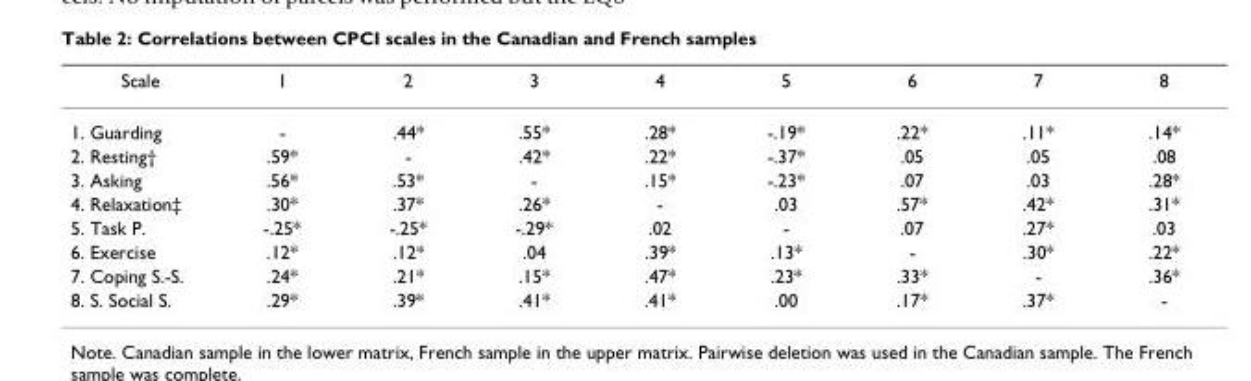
<table><thead><tr><td>Scale</td><td>1</td><td>2</td><td>3</td><td>4</td><td>5</td><td>6</td><td>7</td><td>8</td></tr></thead><tbody><tr><td>1. Guarding</td><td>-</td><td>.44*</td><td>.55*</td><td>.28*</td><td>-.19*</td><td>.22*</td><td>.11*</td><td>.14*</td></tr><tr><td>2. Resting†</td><td>.59*</td><td>-</td><td>.42*</td><td>.22*</td><td>-.37*</td><td>.05</td><td>.05</td><td>.08</td></tr><tr><td>3. Asking</td><td>.56*</td><td>.53*</td><td>-</td><td>.15*</td><td>-.23*</td><td>.07</td><td>.03</td><td>.28*</td></tr><tr><td>4. Relaxation‡</td><td>.30*</td><td>.37*</td><td>.26*</td><td>-</td><td>.03</td><td>.57*</td><td>.42*</td><td>.31*</td></tr><tr><td>5. Task P.</td><td>-.25*</td><td>-.25*</td><td>-.29*</td><td>.02</td><td>-</td><td>.07</td><td>.27*</td><td>.03</td></tr><tr><td>6. Exercise</td><td>.12*</td><td>.12*</td><td>.04</td><td>.39*</td><td>.13*</td><td>-</td><td>.30*</td><td>.22*</td></tr><tr><td>7. Coping S.-S.</td><td>.24*</td><td>.21*</td><td>.15*</td><td>.47*</td><td>.23*</td><td>.33*</td><td>-</td><td>.36*</td></tr><tr><td>8. S. Social S.</td><td>.29*</td><td>.39*</td><td>.41*</td><td>.41*</td><td>.00</td><td>.17*</td><td>.37*</td><td>-</td></tr></tbody></table>